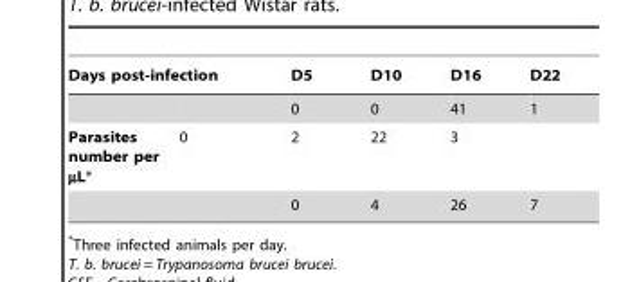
<table><thead><tr><td colspan="2">Days post-infection</td><td rowspan="2">D5 0</td><td rowspan="2">D10 0</td><td rowspan="2">D16 41</td><td rowspan="2">D22 1</td></tr><tr><td></td><td></td></tr></thead><tbody><tr><td rowspan="2">Parasites number per µL*</td><td>0</td><td>2</td><td>22</td><td>3</td><td></td></tr><tr><td></td><td>0</td><td>4</td><td>26</td><td>7</td></tr></tbody></table>